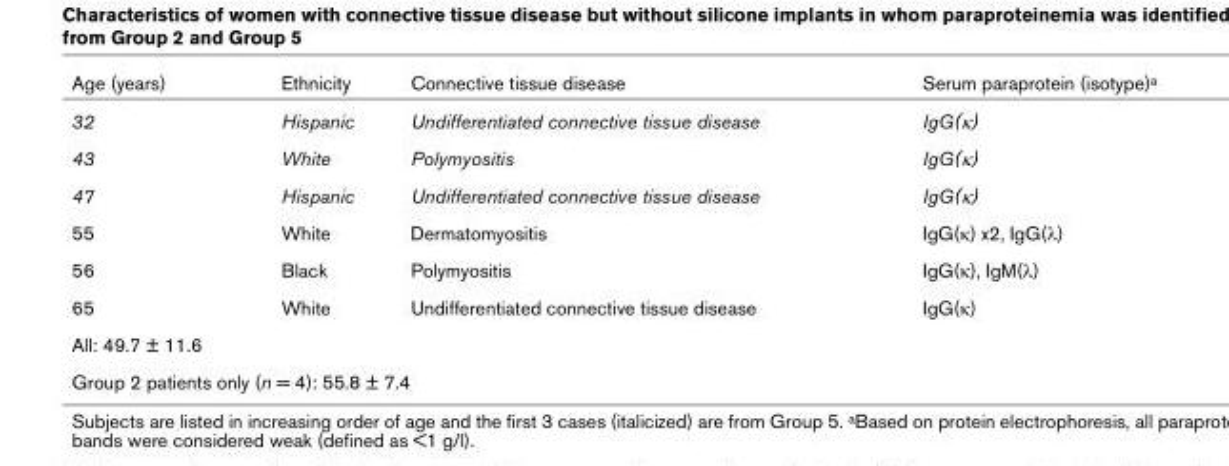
<table><thead><tr><td>Age (years)</td><td>Ethnicity</td><td>Connective tissue disease</td><td>Serum paraprotein (isotype)<sup>a</sup></td></tr></thead><tbody><tr><td>32</td><td>Hispanic</td><td>Undifferentiated connective tissue disease</td><td>IgG(κ)</td></tr><tr><td>43</td><td>White</td><td>Polymyositis</td><td>IgG(κ)</td></tr><tr><td>47</td><td>Hispanic</td><td>Undifferentiated connective tissue disease</td><td>IgG(κ)</td></tr><tr><td>55</td><td>White</td><td>Dermatomyositis</td><td>IgG(κ) x2, IgG(λ)</td></tr><tr><td>56</td><td>Black</td><td>Polymyositis</td><td>IgG(κ), IgM(λ)</td></tr><tr><td>65</td><td>White</td><td>Undifferentiated connective tissue disease</td><td>IgG(κ)</td></tr><tr><td colspan="4">All: 49.7 ± 11.6</td></tr><tr><td colspan="4">Group 2 patients only (n = 4): 55.8 ± 7.4</td></tr></tbody></table>